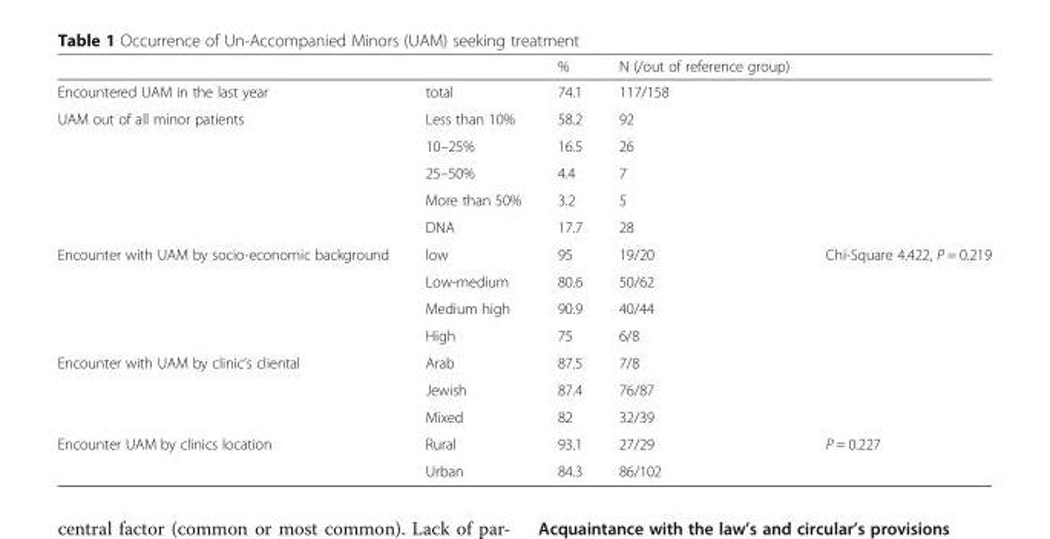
<table><thead><tr><td></td><td></td><td>%</td><td>N (/out of reference group)</td><td></td></tr></thead><tbody><tr><td>Encountered UAM in the last year</td><td>total</td><td>74.1</td><td>117/158</td><td></td></tr><tr><td rowspan="5">UAM out of all minor patients</td><td>Less than 10%</td><td>58.2</td><td>92</td><td rowspan="5"></td></tr><tr><td>10–25%</td><td>16.5</td><td>26</td></tr><tr><td>25–50%</td><td>4.4</td><td>7</td></tr><tr><td>More than 50%</td><td>3.2</td><td>5</td></tr><tr><td>DNA</td><td>17.7</td><td>28</td></tr><tr><td rowspan="4">Encounter with UAM by socio-economic background</td><td>low</td><td>95</td><td>19/20</td><td rowspan="4">Chi-Square 4.422, P = 0.219</td></tr><tr><td>Low-medium</td><td>80.6</td><td>50/62</td></tr><tr><td>Medium high</td><td>90.9</td><td>40/44</td></tr><tr><td>High</td><td>75</td><td>6/8</td></tr><tr><td rowspan="3">Encounter with UAM by clinic’s cliental</td><td>Arab</td><td>87.5</td><td>7/8</td><td rowspan="3"></td></tr><tr><td>Jewish</td><td>87.4</td><td>76/87</td></tr><tr><td>Mixed</td><td>82</td><td>32/39</td></tr><tr><td rowspan="2">Encounter UAM by clinics location</td><td>Rural</td><td>93.1</td><td>27/29</td><td rowspan="2">P = 0.227</td></tr><tr><td>Urban</td><td>84.3</td><td>86/102</td></tr></tbody></table>